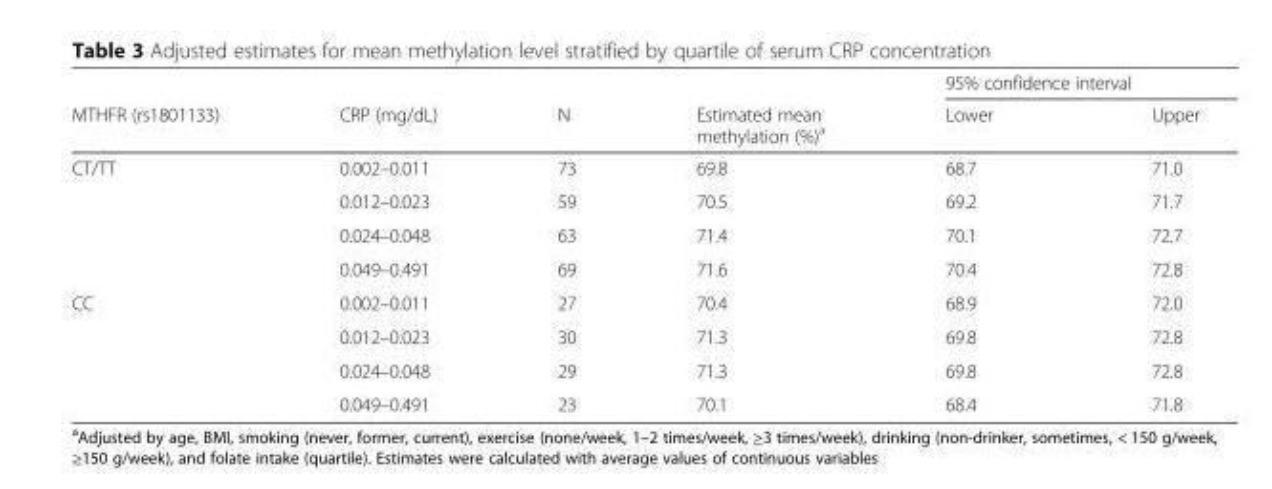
<table><thead><tr><td rowspan="2">MTHFR (rs1801133)</td><td rowspan="2">CRP (mg/dL)</td><td rowspan="2">N</td><td rowspan="2">Estimated mean methylation (%)<sup>a</sup></td><td colspan="2">95% confidence interval</td></tr><tr><td>Lower</td><td>Upper</td></tr></thead><tbody><tr><td rowspan="4">CT/TT</td><td>0.002–0.011</td><td>73</td><td>69.8</td><td>68.7</td><td>71.0</td></tr><tr><td>0.012–0.023</td><td>59</td><td>70.5</td><td>69.2</td><td>71.7</td></tr><tr><td>0.024–0.048</td><td>63</td><td>71.4</td><td>70.1</td><td>72.7</td></tr><tr><td>0.049–0.491</td><td>69</td><td>71.6</td><td>70.4</td><td>72.8</td></tr><tr><td rowspan="4">CC</td><td>0.002–0.011</td><td>27</td><td>70.4</td><td>68.9</td><td>72.0</td></tr><tr><td>0.012–0.023</td><td>30</td><td>71.3</td><td>69.8</td><td>72.8</td></tr><tr><td>0.024–0.048</td><td>29</td><td>71.3</td><td>69.8</td><td>72.8</td></tr><tr><td>0.049–0.491</td><td>23</td><td>70.1</td><td>68.4</td><td>71.8</td></tr></tbody></table>